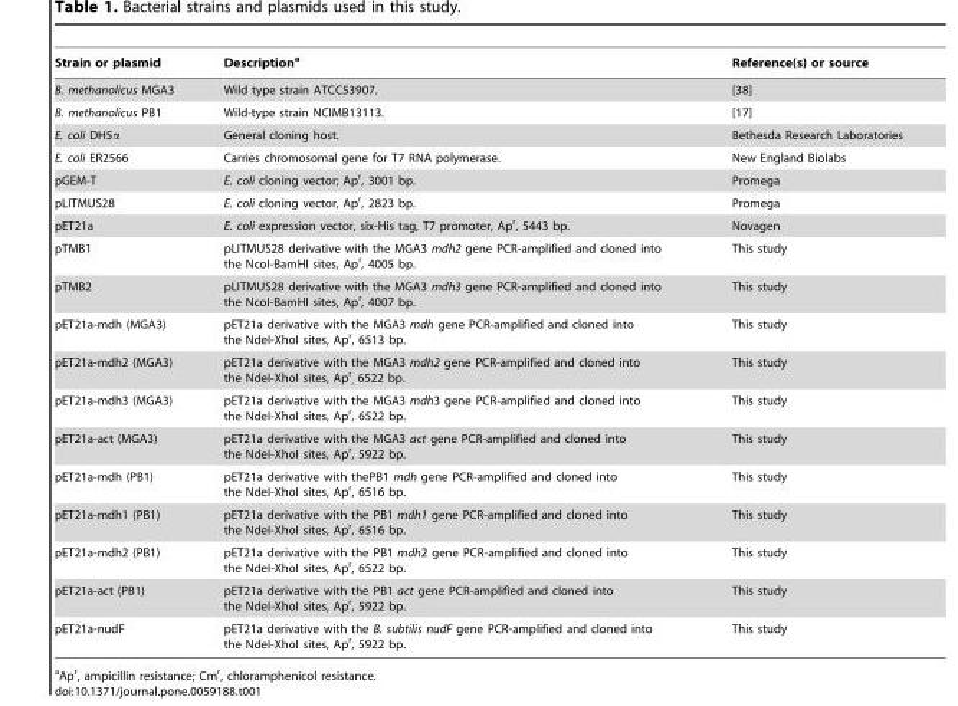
<table><thead><tr><td>Strain or plasmid</td><td>Description<sup>a</sup></td><td>Reference(s) or source</td></tr></thead><tbody><tr><td>B. methanolicus MGA3</td><td>Wild type strain ATCC53907.</td><td>[38]</td></tr><tr><td>B. methanolicus PB1</td><td>Wild-type strain NCIMB13113.</td><td>[17]</td></tr><tr><td>E. coli DH5α</td><td>General cloning host.</td><td>Bethesda Research Laboratories</td></tr><tr><td>E. coli ER2566</td><td>Carries chromosomal gene for T7 RNA polymerase.</td><td>New England Biolabs</td></tr><tr><td>pGEM-T</td><td>E. coli cloning vector; Ap<sup>r</sup>, 3001 bp.</td><td>Promega</td></tr><tr><td>pLITMUS28</td><td>E. coli cloning vector, Ap<sup>r</sup>, 2823 bp.</td><td>Promega</td></tr><tr><td>pET21a</td><td>E. coli expression vector, six-His tag, T7 promoter, Ap<sup>r</sup>, 5443 bp.</td><td>Novagen</td></tr><tr><td>pTMB1</td><td>pLITMUS28 derivative with the MGA3 mdh2 gene PCR-amplified and cloned into the NcoI-BamHI sites, Ap<sup>r</sup>, 4005 bp.</td><td>This study</td></tr><tr><td>pTMB2</td><td>pLITMUS28 derivative with the MGA3 mdh3 gene PCR-amplified and cloned into the NcoI-BamHI sites, Ap<sup>r</sup>, 4007 bp.</td><td>This study</td></tr><tr><td>pET21a-mdh (MGA3)</td><td>pET21a derivative with the MGA3 mdh gene PCR-amplified and cloned into the NdeI-XhoI sites, Ap<sup>r</sup>, 6513 bp.</td><td>This study</td></tr><tr><td>pET21a-mdh2 (MGA3)</td><td>pET21a derivative with the MGA3 mdh2 gene PCR-amplified and cloned into the NdeI-XhoI sites, Ap<sup>r</sup> <sub>,</sub> 6522 bp.</td><td>This study</td></tr><tr><td>pET21a-mdh3 (MGA3)</td><td>pET21a derivative with the MGA3 mdh3 gene PCR-amplified and cloned into the NdeI-XhoI sites, Ap<sup>r</sup>, 6522 bp.</td><td>This study</td></tr><tr><td>pET21a-act (MGA3)</td><td>pET21a derivative with the MGA3 act gene PCR-amplified and cloned into the NdeI-XhoI sites, Ap<sup>r</sup>, 5922 bp.</td><td>This study</td></tr><tr><td>pET21a-mdh (PB1)</td><td>pET21a derivative with thePB1 mdh gene PCR-amplified and cloned into the NdeI-XhoI sites, Ap<sup>r</sup>, 6516 bp.</td><td>This study</td></tr><tr><td>pET21a-mdh1 (PB1)</td><td>pET21a derivative with the PB1 mdh1 gene PCR-amplified and cloned into the NdeI-XhoI sites, Ap<sup>r</sup>, 6516 bp.</td><td>This study</td></tr><tr><td>pET21a-mdh2 (PB1)</td><td>pET21a derivative with the PB1 mdh2 gene PCR-amplified and cloned into the NdeI-XhoI sites, Ap<sup>r</sup>, 6522 bp.</td><td>This study</td></tr><tr><td>pET21a-act (PB1)</td><td>pET21a derivative with the PB1 act gene PCR-amplified and cloned into the NdeI-XhoI sites, Ap<sup>r</sup>, 5922 bp.</td><td>This study</td></tr><tr><td>pET21a-nudF</td><td>pET21a derivative with the B. subtilis nudF gene PCR-amplified and cloned into the NdeI-XhoI sites, Ap<sup>r</sup>, 5922 bp.</td><td>This study</td></tr></tbody></table>